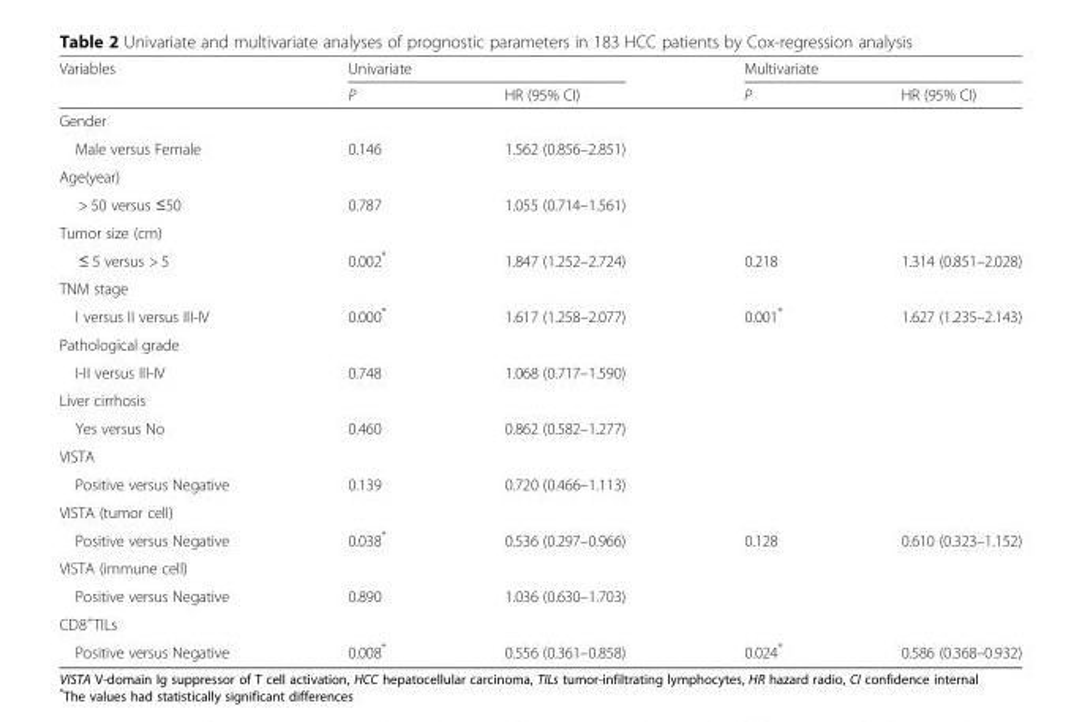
<table><thead><tr><td rowspan="2">Variables</td><td colspan="2">Univariate</td><td colspan="2">Multivariate</td></tr><tr><td>P</td><td>HR (95% CI)</td><td>P</td><td>HR (95% CI)</td></tr></thead><tbody><tr><td colspan="5">Gender</td></tr><tr><td>Male versus Female</td><td>0.146</td><td>1.562 (0.856–2.851)</td><td></td><td></td></tr><tr><td colspan="5">Age(year)</td></tr><tr><td>&gt; 50 versus ≤50</td><td>0.787</td><td>1.055 (0.714–1.561)</td><td></td><td></td></tr><tr><td colspan="5">Tumor size (cm)</td></tr><tr><td>≤ 5 versus &gt; 5</td><td>0.002*</td><td>1.847 (1.252–2.724)</td><td>0.218</td><td>1.314 (0.851–2.028)</td></tr><tr><td colspan="5">TNM stage</td></tr><tr><td>I versus II versus III-IV</td><td>0.000*</td><td>1.617 (1.258–2.077)</td><td>0.001*</td><td>1.627 (1.235–2.143)</td></tr><tr><td colspan="5">Pathological grade</td></tr><tr><td>I-II versus III-IV</td><td>0.748</td><td>1.068 (0.717–1.590)</td><td></td><td></td></tr><tr><td colspan="5">Liver cirrhosis</td></tr><tr><td>Yes versus No</td><td>0.460</td><td>0.862 (0.582–1.277)</td><td></td><td></td></tr><tr><td colspan="5">VISTA</td></tr><tr><td>Positive versus Negative</td><td>0.139</td><td>0.720 (0.466–1.113)</td><td></td><td></td></tr><tr><td colspan="5">VISTA (tumor cell)</td></tr><tr><td>Positive versus Negative</td><td>0.038*</td><td>0.536 (0.297–0.966)</td><td>0.128</td><td>0.610 (0.323–1.152)</td></tr><tr><td colspan="5">VISTA (immune cell)</td></tr><tr><td>Positive versus Negative</td><td>0.890</td><td>1.036 (0.630–1.703)</td><td></td><td></td></tr><tr><td colspan="5">CD8<sup>+</sup>TILs</td></tr><tr><td>Positive versus Negative</td><td>0.008*</td><td>0.556 (0.361–0.858)</td><td>0.024*</td><td>0.586 (0.368–0.932)</td></tr></tbody></table>